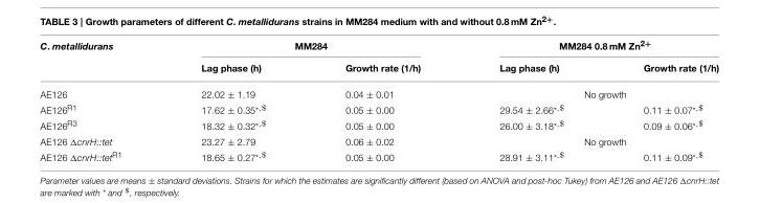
<table><thead><tr><td rowspan="2">C. metallidurans</td><td colspan="2">MM284</td><td colspan="2">MM284 0.8 mM Zn<sup>2+</sup></td></tr><tr><td>Lag phase (h)</td><td>Growth rate (1/h)</td><td>Lag phase (h)</td><td>Growth rate (1/h)</td></tr></thead><tbody><tr><td>AE126</td><td>22.02 ± 1.19</td><td>0.04 ± 0.01</td><td colspan="2">No growth</td></tr><tr><td>AE126<sup>R1</sup></td><td>17.62 ± 0.35<sup>*,$</sup></td><td>0.05 ± 0.00</td><td>29.54 ± 2.66<sup>*,$</sup></td><td>0.11 ± 0.07<sup>*,$</sup></td></tr><tr><td>AE126<sup>R3</sup></td><td>18.32 ± 0.32<sup>*,$</sup></td><td>0.05 ± 0.00</td><td>26.00 ± 3.18<sup>*,$</sup></td><td>0.09 ± 0.06<sup>*,$</sup></td></tr><tr><td>AE126 ΔcnrH::tet</td><td>23.27 ± 2.79</td><td>0.06 ± 0.02</td><td colspan="2">No growth</td></tr><tr><td>AE126 ΔcnrH::tet<sup>R1</sup></td><td>18.65 ± 0.27<sup>*,$</sup></td><td>0.05 ± 0.00</td><td>28.91 ± 3.11<sup>*,$</sup></td><td>0.11 ± 0.09<sup>*,$</sup></td></tr></tbody></table>